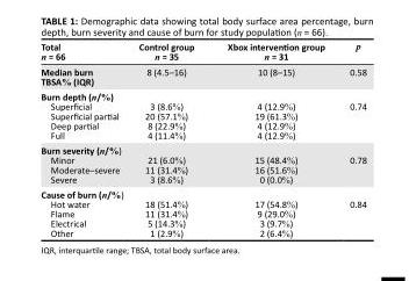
<table><thead><tr><td>Total n = 66</td><td>Control group n = 35</td><td>Xbox intervention group n = 31</td><td>p</td></tr></thead><tbody><tr><td>Median burn TBSA% (IQR)</td><td>8 (4.5–16)</td><td>10 (8–15)</td><td>0.58</td></tr><tr><td>Burn depth (n/%) Superficial Superficial partial Deep partial Full</td><td>3 (8.6%) 20 (57.1%) 8 (22.9%) 4 (11.4%)</td><td>4 (12.9%) 19 (61.3%) 4 (12.9%) 4 (12.9%)</td><td>0.74</td></tr><tr><td>Burn severity (n/%) Minor Moderate–severe Severe</td><td>21 (6.0%) 11 (31.4%) 3 (8.6%)</td><td>15 (48.4%) 16 (51.6%) 0 (0.0%)</td><td>0.78</td></tr><tr><td>Cause of burn (n/%) Hot water Flame Electrical Other</td><td>18 (51.4%) 11 (31.4%) 5 (14.3%) 1 (2.9%)</td><td>17 (54.8%) 9 (29.0%) 3 (9.7%) 2 (6.4%)</td><td>0.84</td></tr></tbody></table>